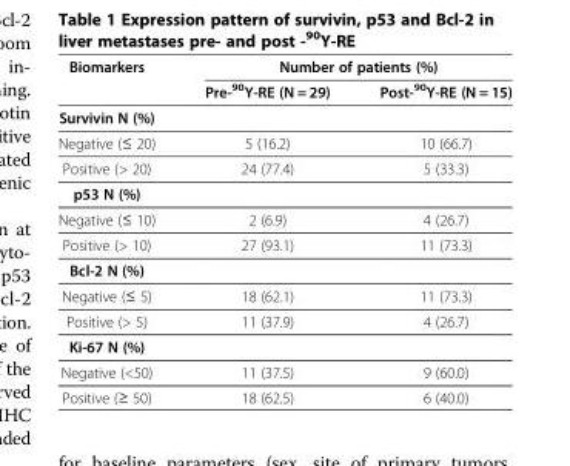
<table><thead><tr><td rowspan="2">Biomarkers</td><td colspan="2">Number of patients (%)</td></tr><tr><td>Pre-<sup>90</sup>Y-RE (N = 29)</td><td>Post-<sup>90</sup>Y-RE (N = 15)</td></tr></thead><tbody><tr><td colspan="3">Survivin N (%)</td></tr><tr><td>Negative (≤ 20)</td><td>5 (16.2)</td><td>10 (66.7)</td></tr><tr><td>Positive (&gt; 20)</td><td>24 (77.4)</td><td>5 (33.3)</td></tr><tr><td colspan="3">p53 N (%)</td></tr><tr><td>Negative (≤ 10)</td><td>2 (6.9)</td><td>4 (26.7)</td></tr><tr><td>Positive (&gt; 10)</td><td>27 (93.1)</td><td>11 (73.3)</td></tr><tr><td colspan="3">Bcl-2 N (%)</td></tr><tr><td>Negative (≤ 5)</td><td>18 (62.1)</td><td>11 (73.3)</td></tr><tr><td>Positive (&gt; 5)</td><td>11 (37.9)</td><td>4 (26.7)</td></tr><tr><td colspan="3">Ki-67 N (%)</td></tr><tr><td>Negative (&lt;50)</td><td>11 (37.5)</td><td>9 (60.0)</td></tr><tr><td>Positive (≥ 50)</td><td>18 (62.5)</td><td>6 (40.0)</td></tr></tbody></table>